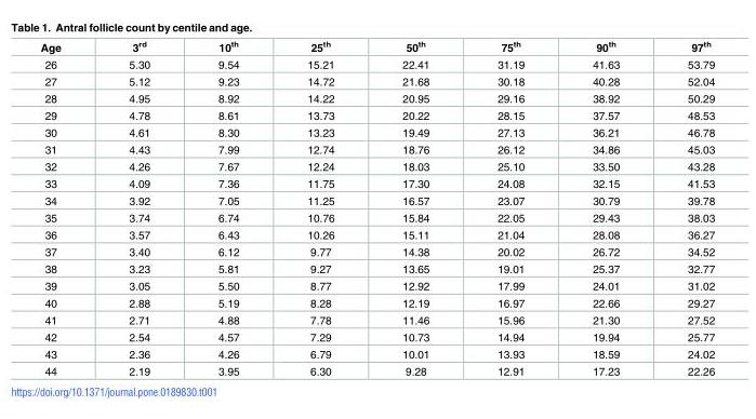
<table><thead><tr><td>Age</td><td>3<sup>rd</sup></td><td>10<sup>th</sup></td><td>25<sup>th</sup></td><td>50<sup>th</sup></td><td>75<sup>th</sup></td><td>90<sup>th</sup></td><td>97<sup>th</sup></td></tr></thead><tbody><tr><td>26</td><td>5.30</td><td>9.54</td><td>15.21</td><td>22.41</td><td>31.19</td><td>41.63</td><td>53.79</td></tr><tr><td>27</td><td>5.12</td><td>9.23</td><td>14.72</td><td>21.68</td><td>30.18</td><td>40.28</td><td>52.04</td></tr><tr><td>28</td><td>4.95</td><td>8.92</td><td>14.22</td><td>20.95</td><td>29.16</td><td>38.92</td><td>50.29</td></tr><tr><td>29</td><td>4.78</td><td>8.61</td><td>13.73</td><td>20.22</td><td>28.15</td><td>37.57</td><td>48.53</td></tr><tr><td>30</td><td>4.61</td><td>8.30</td><td>13.23</td><td>19.49</td><td>27.13</td><td>36.21</td><td>46.78</td></tr><tr><td>31</td><td>4.43</td><td>7.99</td><td>12.74</td><td>18.76</td><td>26.12</td><td>34.86</td><td>45.03</td></tr><tr><td>32</td><td>4.26</td><td>7.67</td><td>12.24</td><td>18.03</td><td>25.10</td><td>33.50</td><td>43.28</td></tr><tr><td>33</td><td>4.09</td><td>7.36</td><td>11.75</td><td>17.30</td><td>24.08</td><td>32.15</td><td>41.53</td></tr><tr><td>34</td><td>3.92</td><td>7.05</td><td>11.25</td><td>16.57</td><td>23.07</td><td>30.79</td><td>39.78</td></tr><tr><td>35</td><td>3.74</td><td>6.74</td><td>10.76</td><td>15.84</td><td>22.05</td><td>29.43</td><td>38.03</td></tr><tr><td>36</td><td>3.57</td><td>6.43</td><td>10.26</td><td>15.11</td><td>21.04</td><td>28.08</td><td>36.27</td></tr><tr><td>37</td><td>3.40</td><td>6.12</td><td>9.77</td><td>14.38</td><td>20.02</td><td>26.72</td><td>34.52</td></tr><tr><td>38</td><td>3.23</td><td>5.81</td><td>9.27</td><td>13.65</td><td>19.01</td><td>25.37</td><td>32.77</td></tr><tr><td>39</td><td>3.05</td><td>5.50</td><td>8.77</td><td>12.92</td><td>17.99</td><td>24.01</td><td>31.02</td></tr><tr><td>40</td><td>2.88</td><td>5.19</td><td>8.28</td><td>12.19</td><td>16.97</td><td>22.66</td><td>29.27</td></tr><tr><td>41</td><td>2.71</td><td>4.88</td><td>7.78</td><td>11.46</td><td>15.96</td><td>21.30</td><td>27.52</td></tr><tr><td>42</td><td>2.54</td><td>4.57</td><td>7.29</td><td>10.73</td><td>14.94</td><td>19.94</td><td>25.77</td></tr><tr><td>43</td><td>2.36</td><td>4.26</td><td>6.79</td><td>10.01</td><td>13.93</td><td>18.59</td><td>24.02</td></tr><tr><td>44</td><td>2.19</td><td>3.95</td><td>6.30</td><td>9.28</td><td>12.91</td><td>17.23</td><td>22.26</td></tr></tbody></table>